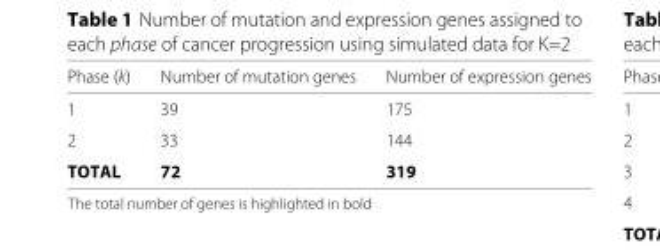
<table><thead><tr><td>Phase (k)</td><td>Number of mutation genes</td><td>Number of expression genes</td></tr></thead><tbody><tr><td>1</td><td>39</td><td>175</td></tr><tr><td>2</td><td>33</td><td>144</td></tr><tr><td>TOTAL</td><td>72</td><td>319</td></tr></tbody></table>